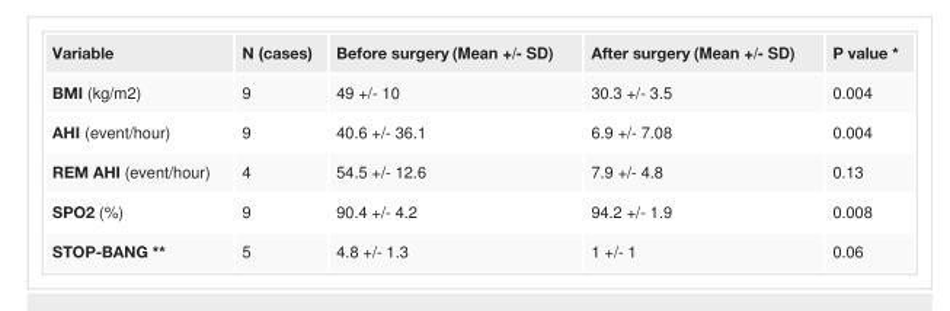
<table><tbody><tr><td>Variable</td><td>N (cases)</td><td>Before surgery (Mean +/- SD)</td><td>After surgery (Mean +/- SD)</td><td>P value *</td></tr><tr><td>BMI (kg/m2)</td><td>9</td><td>49 +/- 10</td><td>30.3 +/- 3.5</td><td>0.004</td></tr><tr><td>AHI (event/hour)</td><td>9</td><td>40.6 +/- 36.1</td><td>6.9 +/- 7.08</td><td>0.004</td></tr><tr><td>REM AHI (event/hour)</td><td>4</td><td>54.5 +/- 12.6</td><td>7.9 +/- 4.8</td><td>0.13</td></tr><tr><td>SPO2 (%)</td><td>9</td><td>90.4 +/- 4.2</td><td>94.2 +/- 1.9</td><td>0.008</td></tr><tr><td>STOP-BANG **</td><td>5</td><td>4.8 +/- 1.3</td><td>1 +/- 1</td><td>0.06</td></tr></tbody></table>